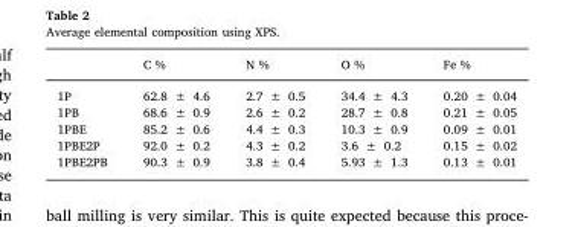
<table><thead><tr><td></td><td>C %</td><td>N %</td><td>O %</td><td>Fe %</td></tr></thead><tbody><tr><td>1P</td><td>62.8 ± 4.6</td><td>2.7 ± 0.5</td><td>34.4 ± 4.3</td><td>0.20 ± 0.04</td></tr><tr><td>1PB</td><td>68.6 ± 0.9</td><td>2.6 ± 0.2</td><td>28.7 ± 0.8</td><td>0.21 ± 0.05</td></tr><tr><td>1PBE</td><td>85.2 ± 0.6</td><td>4.4 ± 0.3</td><td>10.3 ± 0.9</td><td>0.09 ± 0.01</td></tr><tr><td>1PBE2P</td><td>92.0 ± 0.2</td><td>4.3 ± 0.2</td><td>3.6 ± 0.2</td><td>0.15 ± 0.02</td></tr><tr><td>1PBE2PB</td><td>90.3 ± 0.9</td><td>3.8 ± 0.4</td><td>5.93 ± 1.3</td><td>0.13 ± 0.01</td></tr></tbody></table>